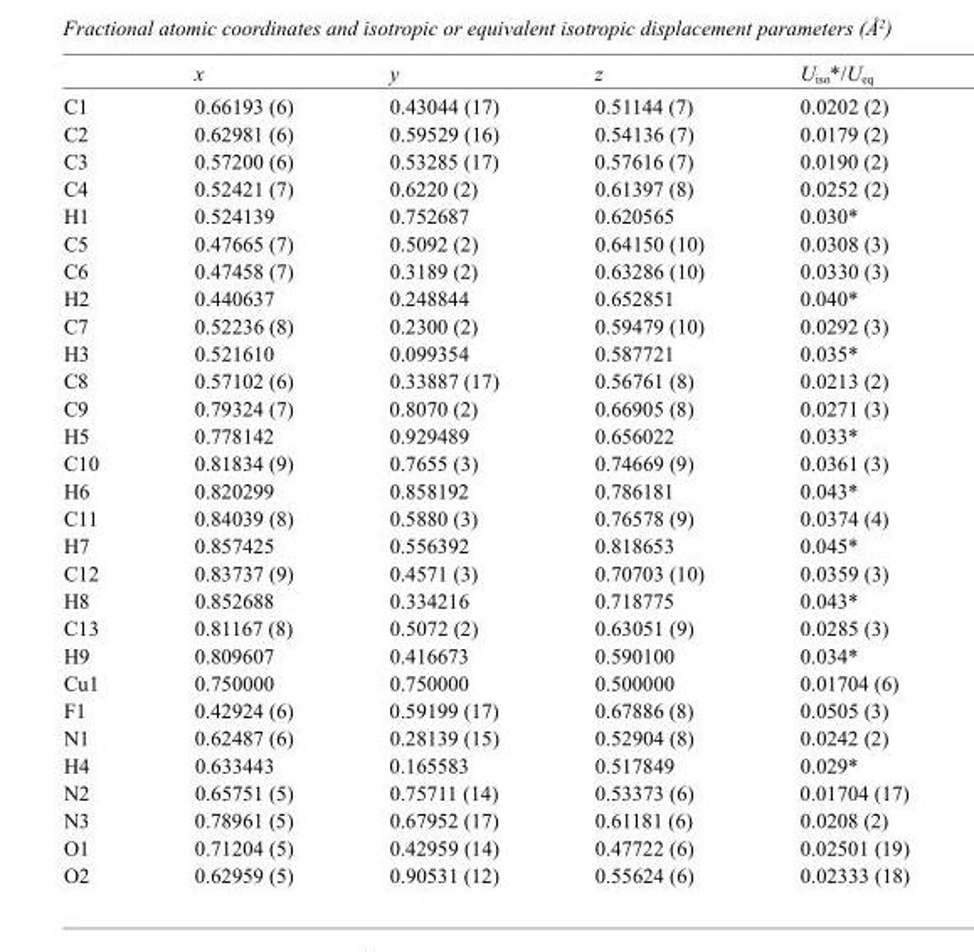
<table><thead><tr><td></td><td>x</td><td>y</td><td>z</td><td>U<sub>iso</sub>*/U<sub>eq</sub></td></tr></thead><tbody><tr><td>C1</td><td>0.66193 (6)</td><td>0.43044 (17)</td><td>0.51144 (7)</td><td>0.0202 (2)</td></tr><tr><td>C2</td><td>0.62981 (6)</td><td>0.59529 (16)</td><td>0.54136 (7)</td><td>0.0179 (2)</td></tr><tr><td>C3</td><td>0.57200 (6)</td><td>0.53285 (17)</td><td>0.57616 (7)</td><td>0.0190 (2)</td></tr><tr><td>C4</td><td>0.52421 (7)</td><td>0.6220 (2)</td><td>0.61397 (8)</td><td>0.0252 (2)</td></tr><tr><td>H1</td><td>0.524139</td><td>0.752687</td><td>0.620565</td><td>0.030*</td></tr><tr><td>C5</td><td>0.47665 (7)</td><td>0.5092 (2)</td><td>0.64150 (10)</td><td>0.0308 (3)</td></tr><tr><td>C6</td><td>0.47458 (7)</td><td>0.3189 (2)</td><td>0.63286 (10)</td><td>0.0330 (3)</td></tr><tr><td>H2</td><td>0.440637</td><td>0.248844</td><td>0.652851</td><td>0.040*</td></tr><tr><td>C7</td><td>0.52236 (8)</td><td>0.2300 (2)</td><td>0.59479 (10)</td><td>0.0292 (3)</td></tr><tr><td>H3</td><td>0.521610</td><td>0.099354</td><td>0.587721</td><td>0.035*</td></tr><tr><td>C8</td><td>0.57102 (6)</td><td>0.33887 (17)</td><td>0.56761 (8)</td><td>0.0213 (2)</td></tr><tr><td>C9</td><td>0.79324 (7)</td><td>0.8070 (2)</td><td>0.66905 (8)</td><td>0.0271 (3)</td></tr><tr><td>H5</td><td>0.778142</td><td>0.929489</td><td>0.656022</td><td>0.033*</td></tr><tr><td>C10</td><td>0.81834 (9)</td><td>0.7655 (3)</td><td>0.74669 (9)</td><td>0.0361 (3)</td></tr><tr><td>H6</td><td>0.820299</td><td>0.858192</td><td>0.786181</td><td>0.043*</td></tr><tr><td>C11</td><td>0.84039 (8)</td><td>0.5880 (3)</td><td>0.76578 (9)</td><td>0.0374 (4)</td></tr><tr><td>H7</td><td>0.857425</td><td>0.556392</td><td>0.818653</td><td>0.045*</td></tr><tr><td>C12</td><td>0.83737 (9)</td><td>0.4571 (3)</td><td>0.70703 (10)</td><td>0.0359 (3)</td></tr><tr><td>H8</td><td>0.852688</td><td>0.334216</td><td>0.718775</td><td>0.043*</td></tr><tr><td>C13</td><td>0.81167 (8)</td><td>0.5072 (2)</td><td>0.63051 (9)</td><td>0.0285 (3)</td></tr><tr><td>H9</td><td>0.809607</td><td>0.416673</td><td>0.590100</td><td>0.034*</td></tr><tr><td>Cu1</td><td>0.750000</td><td>0.750000</td><td>0.500000</td><td>0.01704 (6)</td></tr><tr><td>F1</td><td>0.42924 (6)</td><td>0.59199 (17)</td><td>0.67886 (8)</td><td>0.0505 (3)</td></tr><tr><td>N1</td><td>0.62487 (6)</td><td>0.28139 (15)</td><td>0.52904 (8)</td><td>0.0242 (2)</td></tr><tr><td>H4</td><td>0.633443</td><td>0.165583</td><td>0.517849</td><td>0.029*</td></tr><tr><td>N2</td><td>0.65751 (5)</td><td>0.75711 (14)</td><td>0.53373 (6)</td><td>0.01704 (17)</td></tr><tr><td>N3</td><td>0.78961 (5)</td><td>0.67952 (17)</td><td>0.61181 (6)</td><td>0.0208 (2)</td></tr><tr><td>O1</td><td>0.71204 (5)</td><td>0.42959 (14)</td><td>0.47722 (6)</td><td>0.02501 (19)</td></tr><tr><td>O2</td><td>0.62959 (5)</td><td>0.90531 (12)</td><td>0.55624 (6)</td><td>0.02333 (18)</td></tr></tbody></table>